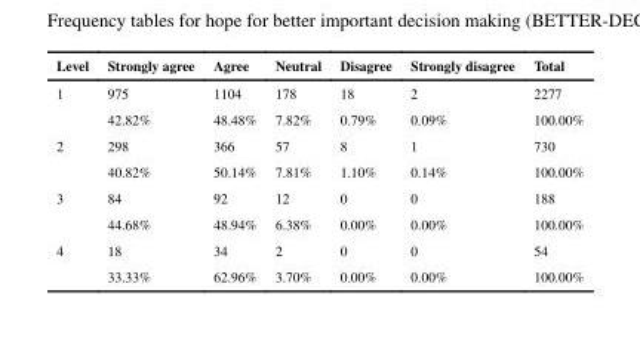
<table><thead><tr><td>Level</td><td>Strongly agree</td><td>Agree</td><td>Neutral</td><td>Disagree</td><td>Strongly disagree</td><td>Total</td></tr></thead><tbody><tr><td rowspan="2">1</td><td>975</td><td>1104</td><td>178</td><td>18</td><td>2</td><td>2277</td></tr><tr><td>42.82%</td><td>48.48%</td><td>7.82%</td><td>0.79%</td><td>0.09%</td><td>100.00%</td></tr><tr><td rowspan="2">2</td><td>298</td><td>366</td><td>57</td><td>8</td><td>1</td><td>730</td></tr><tr><td>40.82%</td><td>50.14%</td><td>7.81%</td><td>1.10%</td><td>0.14%</td><td>100.00%</td></tr><tr><td rowspan="2">3</td><td>84</td><td>92</td><td>12</td><td>0</td><td>0</td><td>188</td></tr><tr><td>44.68%</td><td>48.94%</td><td>6.38%</td><td>0.00%</td><td>0.00%</td><td>100.00%</td></tr><tr><td rowspan="2">4</td><td>18</td><td>34</td><td>2</td><td>0</td><td>0</td><td>54</td></tr><tr><td>33.33%</td><td>62.96%</td><td>3.70%</td><td>0.00%</td><td>0.00%</td><td>100.00%</td></tr></tbody></table>